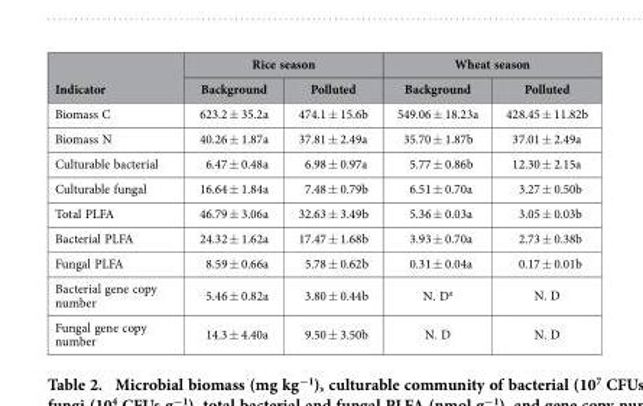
<table><thead><tr><td rowspan="2">Indicator</td><td colspan="2">Rice season</td><td colspan="2">Wheat season</td></tr><tr><td>Background</td><td>Polluted</td><td>Background</td><td>Polluted</td></tr></thead><tbody><tr><td>Biomass C</td><td>623.2 ± 35.2a</td><td>474.1 ± 15.6b</td><td>549.06 ± 18.23a</td><td>428.45 ± 11.82b</td></tr><tr><td>Biomass N</td><td>40.26 ± 1.87a</td><td>37.81 ± 2.49a</td><td>35.70 ± 1.87b</td><td>37.01 ± 2.49a</td></tr><tr><td>Culturable bacterial</td><td>6.47 ± 0.48a</td><td>6.98 ± 0.97a</td><td>5.77 ± 0.86b</td><td>12.30 ± 2.15a</td></tr><tr><td>Culturable fungal</td><td>16.64 ± 1.84a</td><td>7.48 ± 0.79b</td><td>6.51 ± 0.70a</td><td>3.27 ± 0.50b</td></tr><tr><td>Total PLFA</td><td>46.79 ± 3.06a</td><td>32.63 ± 3.49b</td><td>5.36 ± 0.03a</td><td>3.05 ± 0.03b</td></tr><tr><td>Bacterial PLFA</td><td>24.32 ± 1.62a</td><td>17.47 ± 1.68b</td><td>3.93 ± 0.70a</td><td>2.73 ± 0.38b</td></tr><tr><td>Fungal PLFA</td><td>8.59 ± 0.66a</td><td>5.78 ± 0.62b</td><td>0.31 ± 0.04a</td><td>0.17 ± 0.01b</td></tr><tr><td>Bacterial gene copy number</td><td>5.46 ± 0.82a</td><td>3.80 ± 0.44b</td><td>N. D<sup>a</sup></td><td>N. D</td></tr><tr><td>Fungal gene copy number</td><td>14.3 ± 4.40a</td><td>9.50 ± 3.50b</td><td>N. D</td><td>N. D</td></tr></tbody></table>